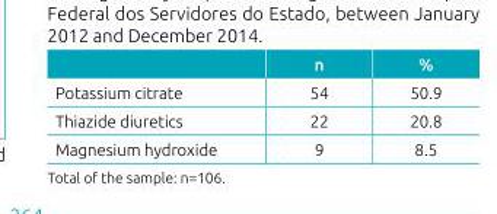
<table><thead><tr><td></td><td>n</td><td>%</td></tr></thead><tbody><tr><td>Potassium citrate</td><td>54</td><td>50.9</td></tr><tr><td>Thiazide diuretics</td><td>22</td><td>20.8</td></tr><tr><td>Magnesium hydroxide</td><td>9</td><td>8.5</td></tr></tbody></table>